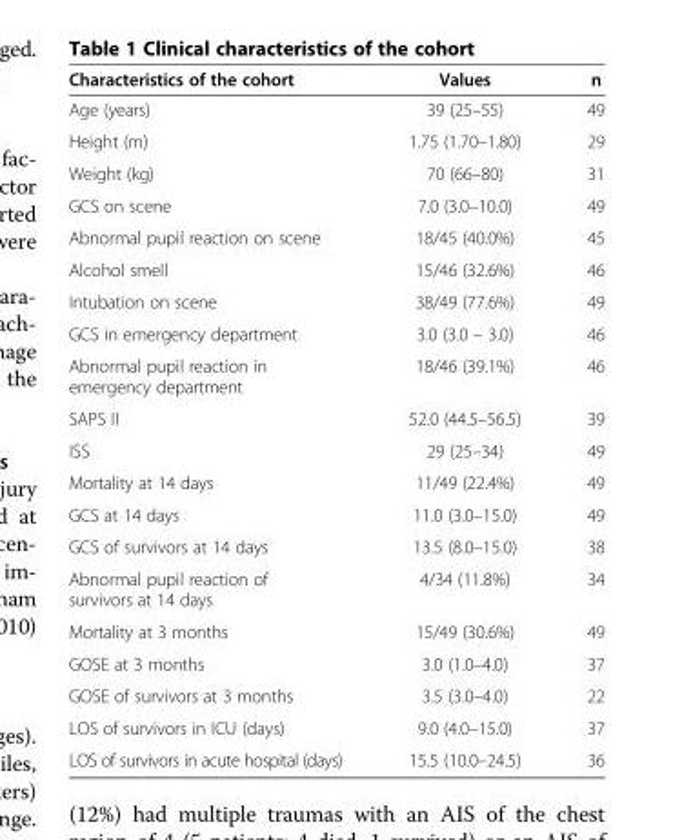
<table><thead><tr><td>Characteristics of the cohort</td><td>Values</td><td>n</td></tr></thead><tbody><tr><td>Age (years)</td><td>39 (25–55)</td><td>49</td></tr><tr><td>Height (m)</td><td>1.75 (1.70–1.80)</td><td>29</td></tr><tr><td>Weight (kg)</td><td>70 (66–80)</td><td>31</td></tr><tr><td>GCS on scene</td><td>7.0 (3.0–10.0)</td><td>49</td></tr><tr><td>Abnormal pupil reaction on scene</td><td>18/45 (40.0%)</td><td>45</td></tr><tr><td>Alcohol smell</td><td>15/46 (32.6%)</td><td>46</td></tr><tr><td>Intubation on scene</td><td>38/49 (77.6%)</td><td>49</td></tr><tr><td>GCS in emergency department</td><td>3.0 (3.0 – 3.0)</td><td>46</td></tr><tr><td>Abnormal pupil reaction in emergency department</td><td>18/46 (39.1%)</td><td>46</td></tr><tr><td>SAPS II</td><td>52.0 (44.5–56.5)</td><td>39</td></tr><tr><td>ISS</td><td>29 (25–34)</td><td>49</td></tr><tr><td>Mortality at 14 days</td><td>11/49 (22.4%)</td><td>49</td></tr><tr><td>GCS at 14 days</td><td>11.0 (3.0–15.0)</td><td>49</td></tr><tr><td>GCS of survivors at 14 days</td><td>13.5 (8.0–15.0)</td><td>38</td></tr><tr><td>Abnormal pupil reaction of survivors at 14 days</td><td>4/34 (11.8%)</td><td>34</td></tr><tr><td>Mortality at 3 months</td><td>15/49 (30.6%)</td><td>49</td></tr><tr><td>GOSE at 3 months</td><td>3.0 (1.0–4.0)</td><td>37</td></tr><tr><td>GOSE of survivors at 3 months</td><td>3.5 (3.0–4.0)</td><td>22</td></tr><tr><td>LOS of survivors in ICU (days)</td><td>9.0 (4.0–15.0)</td><td>37</td></tr><tr><td>LOS of survivors in acute hospital (days)</td><td>15.5 (10.0–24.5)</td><td>36</td></tr></tbody></table>